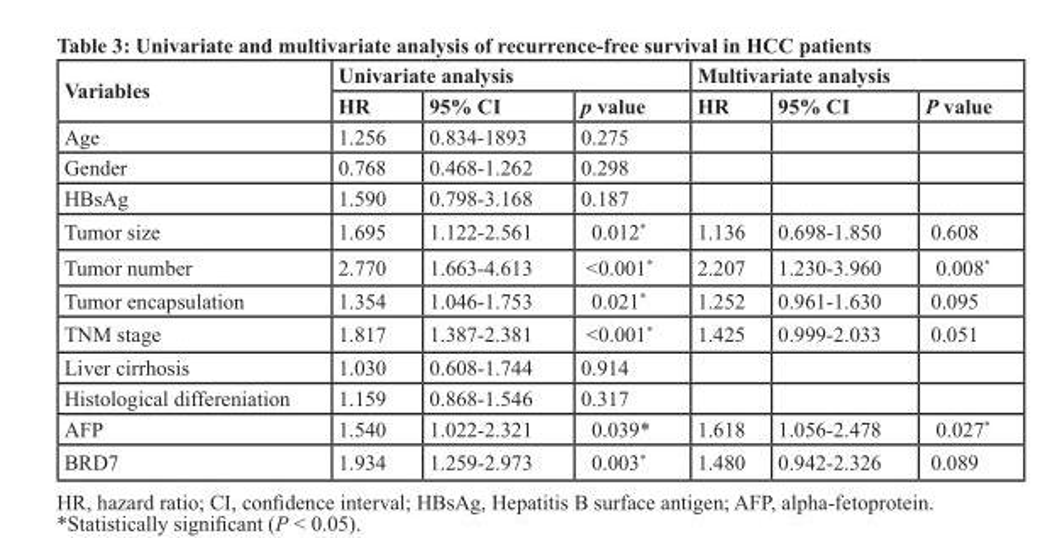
<table><thead><tr><td rowspan="2">Variables</td><td colspan="3">Univariate analysis</td><td colspan="3">Multivariate analysis</td></tr><tr><td>HR</td><td>95% CI</td><td>p value</td><td>HR</td><td>95% CI</td><td>P value</td></tr></thead><tbody><tr><td>Age</td><td>1.256</td><td>0.834-1893</td><td>0.275</td><td></td><td></td><td></td></tr><tr><td>Gender</td><td>0.768</td><td>0.468-1.262</td><td>0.298</td><td></td><td></td><td></td></tr><tr><td>HBsAg</td><td>1.590</td><td>0.798-3.168</td><td>0.187</td><td></td><td></td><td></td></tr><tr><td>Tumor size</td><td>1.695</td><td>1.122-2.561</td><td>0.012*</td><td>1.136</td><td>0.698-1.850</td><td>0.608</td></tr><tr><td>Tumor number</td><td>2.770</td><td>1.663-4.613</td><td>&lt;0.001*</td><td>2.207</td><td>1.230-3.960</td><td>0.008*</td></tr><tr><td>Tumor encapsulation</td><td>1.354</td><td>1.046-1.753</td><td>0.021*</td><td>1.252</td><td>0.961-1.630</td><td>0.095</td></tr><tr><td>TNM stage</td><td>1.817</td><td>1.387-2.381</td><td>&lt;0.001*</td><td>1.425</td><td>0.999-2.033</td><td>0.051</td></tr><tr><td>Liver cirrhosis</td><td>1.030</td><td>0.608-1.744</td><td>0.914</td><td></td><td></td><td></td></tr><tr><td>Histological differeniation</td><td>1.159</td><td>0.868-1.546</td><td>0.317</td><td></td><td></td><td></td></tr><tr><td>AFP</td><td>1.540</td><td>1.022-2.321</td><td>0.039*</td><td>1.618</td><td>1.056-2.478</td><td>0.027*</td></tr><tr><td>BRD7</td><td>1.934</td><td>1.259-2.973</td><td>0.003*</td><td>1.480</td><td>0.942-2.326</td><td>0.089</td></tr></tbody></table>